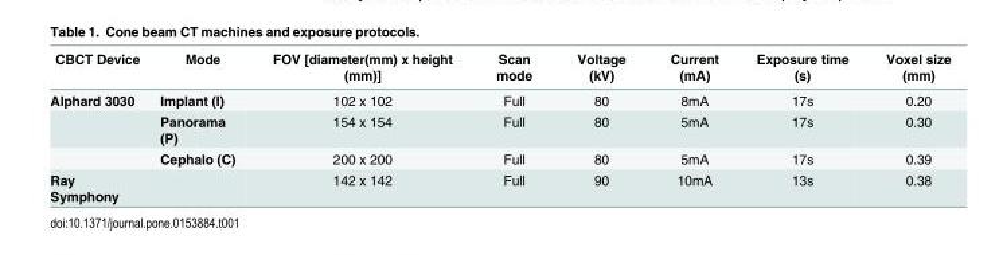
<table><thead><tr><td>CBCT Device</td><td>Mode</td><td>FOV [diameter(mm) x height (mm)]</td><td>Scan mode</td><td>Voltage (kV)</td><td>Current (mA)</td><td>Exposure time (s)</td><td>Voxel size (mm)</td></tr></thead><tbody><tr><td rowspan="3">Alphard 3030</td><td>Implant (I)</td><td>102 x 102</td><td>Full</td><td>80</td><td>8mA</td><td>17s</td><td>0.20</td></tr><tr><td>Panorama (P)</td><td>154 x 154</td><td>Full</td><td>80</td><td>5mA</td><td>17s</td><td>0.30</td></tr><tr><td>Cephalo (C)</td><td>200 x 200</td><td>Full</td><td>80</td><td>5mA</td><td>17s</td><td>0.39</td></tr><tr><td>Ray Symphony</td><td></td><td>142 x 142</td><td>Full</td><td>90</td><td>10mA</td><td>13s</td><td>0.38</td></tr></tbody></table>